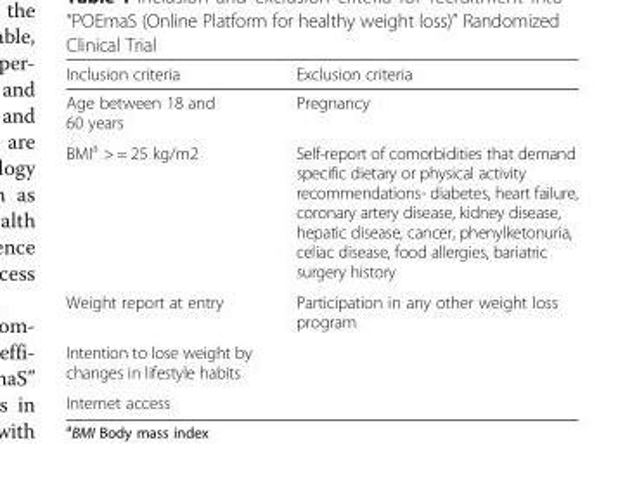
<table><thead><tr><td>Inclusion criteria</td><td>Exclusion criteria</td></tr></thead><tbody><tr><td>Age between 18 and 60 years</td><td>Pregnancy</td></tr><tr><td>BMI<sup>a</sup> &gt; = 25 kg/m2</td><td>Self-report of comorbidities that demand specific dietary or physical activity recommendations- diabetes, heart failure, coronary artery disease, kidney disease, hepatic disease, cancer, phenylketonuria, celiac disease, food allergies, bariatric surgery history</td></tr><tr><td>Weight report at entry</td><td>Participation in any other weight loss program</td></tr><tr><td colspan="2">Intention to lose weight by changes in lifestyle habits</td></tr><tr><td>Internet access</td><td></td></tr></tbody></table>